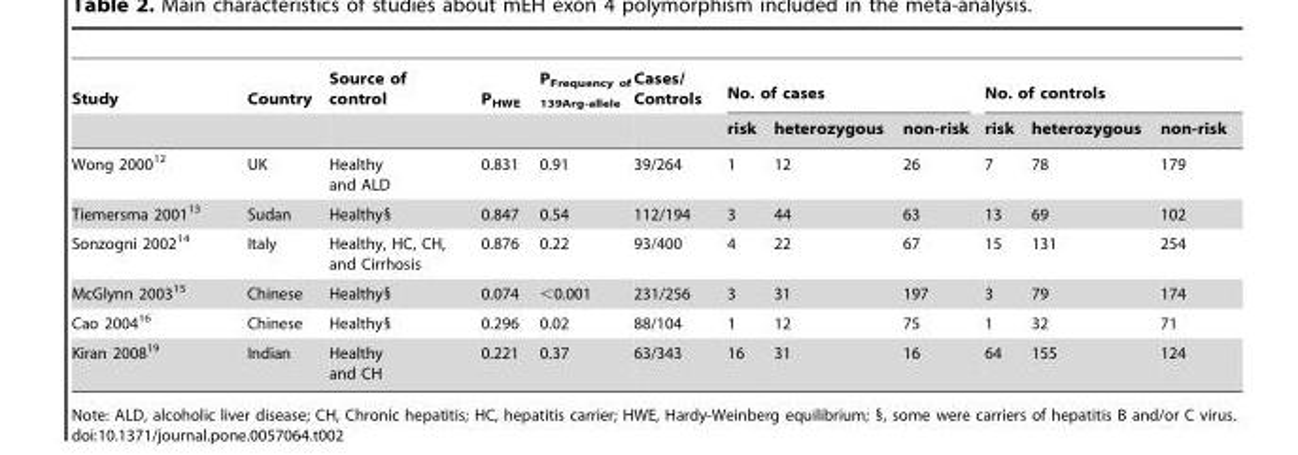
<table><thead><tr><td rowspan="2">Study</td><td rowspan="2">Country</td><td rowspan="2">Source of control</td><td rowspan="2">P<sub>HWE</sub></td><td rowspan="2">P<sub>Frequency of 139Arg-allele</sub></td><td rowspan="2">Cases/ Controls</td><td colspan="3">No. of cases</td><td colspan="3">No. of controls</td></tr><tr><td>risk</td><td>heterozygous</td><td>non-risk</td><td>risk</td><td>heterozygous</td><td>non-risk</td></tr></thead><tbody><tr><td>Wong 2000<sup>12</sup></td><td>UK</td><td>Healthy and ALD</td><td>0.831</td><td>0.91</td><td>39/264</td><td>1</td><td>12</td><td>26</td><td>7</td><td>78</td><td>179</td></tr><tr><td>Tiemersma 2001<sup>13</sup></td><td>Sudan</td><td>Healthy§</td><td>0.847</td><td>0.54</td><td>112/194</td><td>3</td><td>44</td><td>63</td><td>13</td><td>69</td><td>102</td></tr><tr><td>Sonzogni 2002<sup>14</sup></td><td>Italy</td><td>Healthy, HC, CH, and Cirrhosis</td><td>0.876</td><td>0.22</td><td>93/400</td><td>4</td><td>22</td><td>67</td><td>15</td><td>131</td><td>254</td></tr><tr><td>McGlynn 2003<sup>15</sup></td><td>Chinese</td><td>Healthy§</td><td>0.074</td><td>&lt;0.001</td><td>231/256</td><td>3</td><td>31</td><td>197</td><td>3</td><td>79</td><td>174</td></tr><tr><td>Cao 2004<sup>16</sup></td><td>Chinese</td><td>Healthy§</td><td>0.296</td><td>0.02</td><td>88/104</td><td>1</td><td>12</td><td>75</td><td>1</td><td>32</td><td>71</td></tr><tr><td>Kiran 2008<sup>19</sup></td><td>Indian</td><td>Healthy and CH</td><td>0.221</td><td>0.37</td><td>63/343</td><td>16</td><td>31</td><td>16</td><td>64</td><td>155</td><td>124</td></tr></tbody></table>